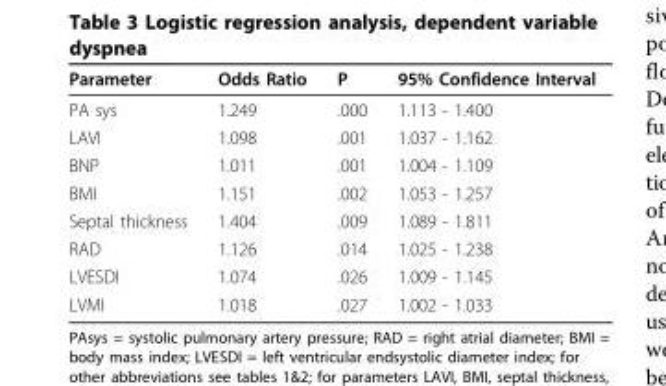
<table><thead><tr><td>Parameter</td><td>Odds Ratio</td><td>P</td><td>95% Confidence Interval</td></tr></thead><tbody><tr><td>PA sys</td><td>1.249</td><td>.000</td><td>1.113 - 1.400</td></tr><tr><td>LAVI</td><td>1.098</td><td>.001</td><td>1.037 - 1.162</td></tr><tr><td>BNP</td><td>1.011</td><td>.001</td><td>1.004 - 1.109</td></tr><tr><td>BMI</td><td>1.151</td><td>.002</td><td>1.053 - 1.257</td></tr><tr><td>Septal thickness</td><td>1.404</td><td>.009</td><td>1.089 - 1.811</td></tr><tr><td>RAD</td><td>1.126</td><td>.014</td><td>1.025 - 1.238</td></tr><tr><td>LVESDI</td><td>1.074</td><td>.026</td><td>1.009 - 1.145</td></tr><tr><td>LVMI</td><td>1.018</td><td>.027</td><td>1.002 - 1.033</td></tr></tbody></table>